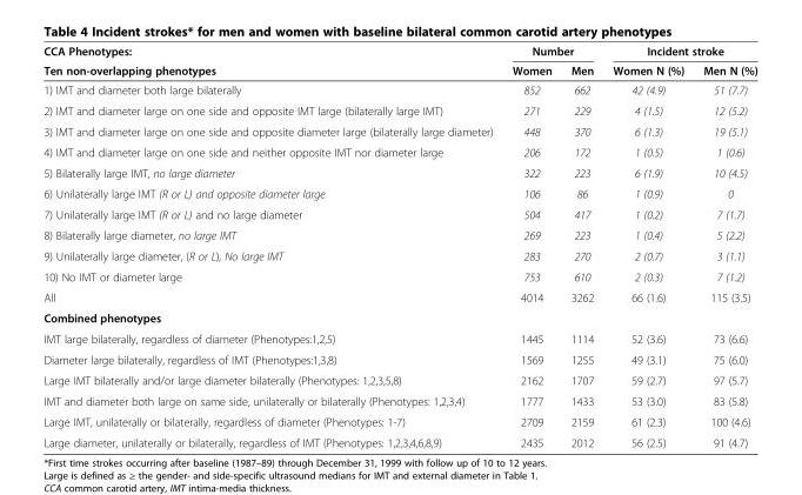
<table><thead><tr><td rowspan="2">CCA Phenotypes: Ten non-overlapping phenotypes</td><td colspan="2">Number</td><td colspan="2">Incident stroke</td></tr><tr><td>Women</td><td>Men</td><td>Women N (%)</td><td>Men N (%)</td></tr></thead><tbody><tr><td>1) IMT and diameter both large bilaterally</td><td>852</td><td>662</td><td>42 (4.9)</td><td>51 (7.7)</td></tr><tr><td>2) IMT and diameter large on one side and opposite IMT large (bilaterally large IMT)</td><td>271</td><td>229</td><td>4 (1.5)</td><td>12 (5.2)</td></tr><tr><td>3) IMT and diameter large on one side and opposite diameter large (bilaterally large diameter)</td><td>448</td><td>370</td><td>6 (1.3)</td><td>19 (5.1)</td></tr><tr><td>4) IMT and diameter large on one side and neither opposite IMT nor diameter large</td><td>206</td><td>172</td><td>1 (0.5)</td><td>1 (0.6)</td></tr><tr><td>5) Bilaterally large IMT, no large diameter</td><td>322</td><td>223</td><td>6 (1.9)</td><td>10 (4.5)</td></tr><tr><td>6) Unilaterally large IMT (R or L) and opposite diameter large</td><td>106</td><td>86</td><td>1 (0.9)</td><td>0</td></tr><tr><td>7) Unilaterally large IMT (R or L) and no large diameter</td><td>504</td><td>417</td><td>1 (0.2)</td><td>7 (1.7)</td></tr><tr><td>8) Bilaterally large diameter, no large IMT</td><td>269</td><td>223</td><td>1 (0.4)</td><td>5 (2.2)</td></tr><tr><td>9) Unilaterally large diameter, (R or L), No large IMT</td><td>283</td><td>270</td><td>2 (0.7)</td><td>3 (1.1)</td></tr><tr><td>10) No IMT or diameter large</td><td>753</td><td>610</td><td>2 (0.3)</td><td>7 (1.2)</td></tr><tr><td>All</td><td>4014</td><td>3262</td><td>66 (1.6)</td><td>115 (3.5)</td></tr><tr><td colspan="5">Combined phenotypes</td></tr><tr><td>IMT large bilaterally, regardless of diameter (Phenotypes:1,2,5)</td><td>1445</td><td>1114</td><td>52 (3.6)</td><td>73 (6.6)</td></tr><tr><td>Diameter large bilaterally, regardless of IMT (Phenotypes:1,3,8)</td><td>1569</td><td>1255</td><td>49 (3.1)</td><td>75 (6.0)</td></tr><tr><td>Large IMT bilaterally and/or large diameter bilaterally (Phenotypes: 1,2,3,5,8)</td><td>2162</td><td>1707</td><td>59 (2.7)</td><td>97 (5.7)</td></tr><tr><td>IMT and diameter both large on same side, unilaterally or bilaterally (Phenotypes: 1,2,3,4)</td><td>1777</td><td>1433</td><td>53 (3.0)</td><td>83 (5.8)</td></tr><tr><td>Large IMT, unilaterally or bilaterally, regardless of diameter (Phenotypes: 1-7)</td><td>2709</td><td>2159</td><td>61 (2.3)</td><td>100 (4.6)</td></tr><tr><td>Large diameter, unilaterally or bilaterally, regardless of IMT (Phenotypes: 1,2,3,4,6,8,9)</td><td>2435</td><td>2012</td><td>56 (2.5)</td><td>91 (4.7)</td></tr></tbody></table>